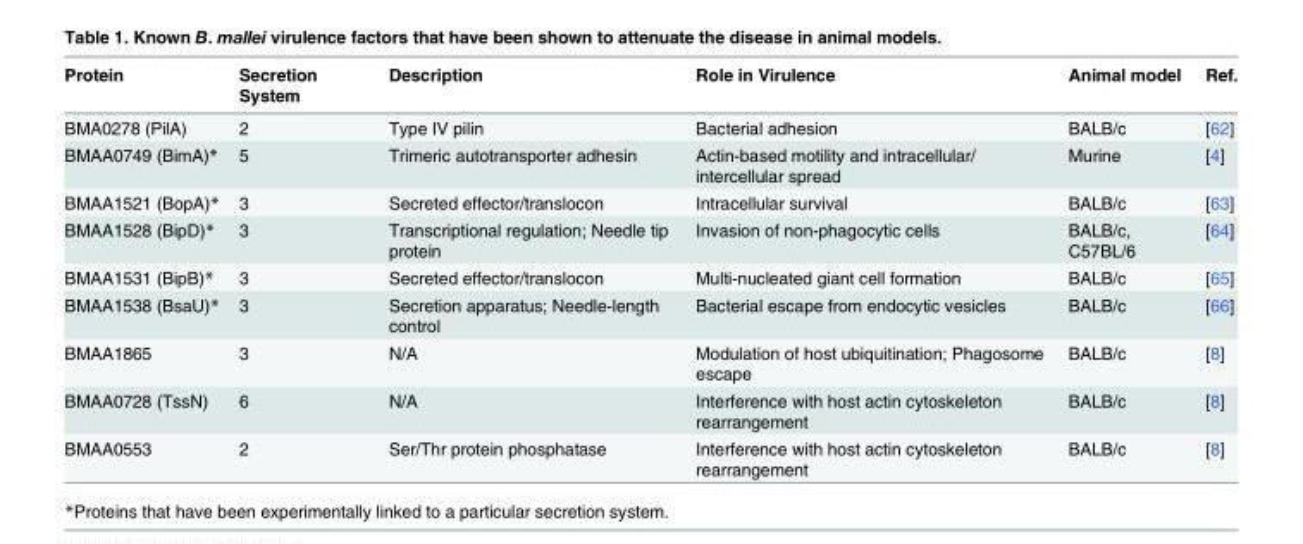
<table><thead><tr><td>Protein</td><td>Secretion System</td><td>Description</td><td>Role in Virulence</td><td>Animal model</td><td>Ref.</td></tr></thead><tbody><tr><td>BMA0278 (PilA)</td><td>2</td><td>Type IV pilin</td><td>Bacterial adhesion</td><td>BALB/c</td><td>[62]</td></tr><tr><td>BMAA0749 (BimA)*</td><td>5</td><td>Trimeric autotransporter adhesin</td><td>Actin-based motility and intracellular/ intercellular spread</td><td>Murine</td><td>[4]</td></tr><tr><td>BMAA1521 (BopA)*</td><td>3</td><td>Secreted effector/translocon</td><td>Intracellular survival</td><td>BALB/c</td><td>[63]</td></tr><tr><td>BMAA1528 (BipD)*</td><td>3</td><td>Transcriptional regulation; Needle tip protein</td><td>Invasion of non-phagocytic cells</td><td>BALB/c, C57BL/6</td><td>[64]</td></tr><tr><td>BMAA1531 (BipB)*</td><td>3</td><td>Secreted effector/translocon</td><td>Multi-nucleated giant cell formation</td><td>BALB/c</td><td>[65]</td></tr><tr><td>BMAA1538 (BsaU)*</td><td>3</td><td>Secretion apparatus; Needle-length control</td><td>Bacterial escape from endocytic vesicles</td><td>BALB/c</td><td>[66]</td></tr><tr><td>BMAA1865</td><td>3</td><td>N/A</td><td>Modulation of host ubiquitination; Phagosome escape</td><td>BALB/c</td><td>[8]</td></tr><tr><td>BMAA0728 (TssN)</td><td>6</td><td>N/A</td><td>Interference with host actin cytoskeleton rearrangement</td><td>BALB/c</td><td>[8]</td></tr><tr><td>BMAA0553</td><td>2</td><td>Ser/Thr protein phosphatase</td><td>Interference with host actin cytoskeleton rearrangement</td><td>BALB/c</td><td>[8]</td></tr></tbody></table>